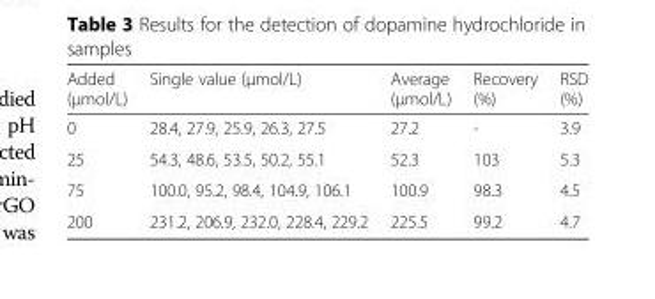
<table><thead><tr><td>Added (μmol/L)</td><td>Single value (μmol/L)</td><td>Average (μmol/L)</td><td>Recovery (%)</td><td>RSD (%)</td></tr></thead><tbody><tr><td>0</td><td>28.4, 27.9, 25.9, 26.3, 27.5</td><td>27.2</td><td>-</td><td>3.9</td></tr><tr><td>25</td><td>54.3, 48.6, 53.5, 50.2, 55.1</td><td>52.3</td><td>103</td><td>5.3</td></tr><tr><td>75</td><td>100.0, 95.2, 98.4, 104.9, 106.1</td><td>100.9</td><td>98.3</td><td>4.5</td></tr><tr><td>200</td><td>231.2, 206.9, 232.0, 228.4, 229.2</td><td>225.5</td><td>99.2</td><td>4.7</td></tr></tbody></table>